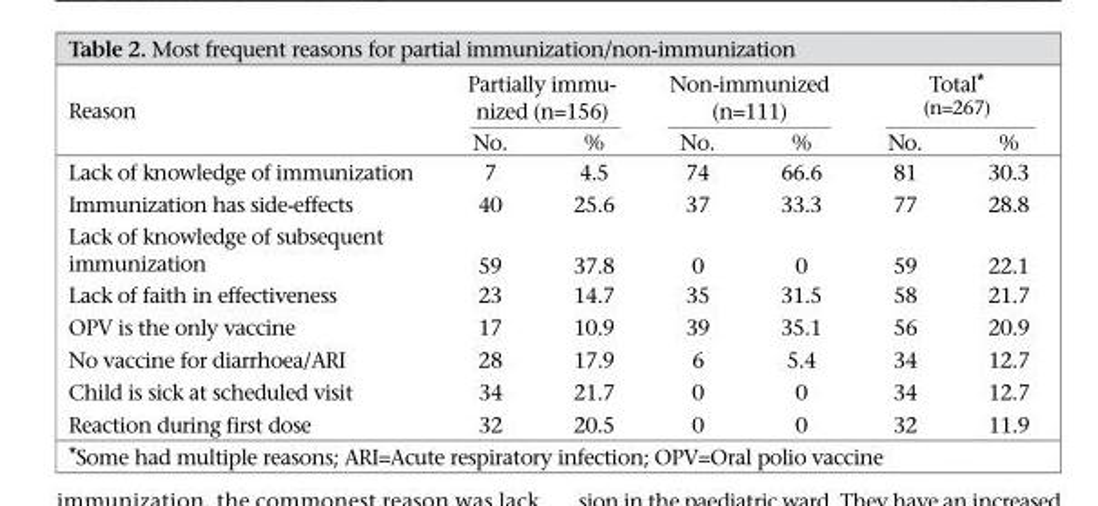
<table><thead><tr><td rowspan="2">Reason</td><td colspan="2">Partially immu- nized (n=156)</td><td colspan="2">Non-immunized (n=111)</td><td colspan="2">Total* (n=267)</td></tr><tr><td>No.</td><td>%</td><td>No.</td><td>%</td><td>No.</td><td>%</td></tr></thead><tbody><tr><td>Lack of knowledge of immunization</td><td>7</td><td>4.5</td><td>74</td><td>66.6</td><td>81</td><td>30.3</td></tr><tr><td>Immunization has side-effects</td><td>40</td><td>25.6</td><td>37</td><td>33.3</td><td>77</td><td>28.8</td></tr><tr><td>Lack of knowledge of subsequent immunization</td><td>59</td><td>37.8</td><td>0</td><td>0</td><td>59</td><td>22.1</td></tr><tr><td>Lack of faith in effectiveness</td><td>23</td><td>14.7</td><td>35</td><td>31.5</td><td>58</td><td>21.7</td></tr><tr><td>OPV is the only vaccine</td><td>17</td><td>10.9</td><td>39</td><td>35.1</td><td>56</td><td>20.9</td></tr><tr><td>No vaccine for diarrhoea/ARI</td><td>28</td><td>17.9</td><td>6</td><td>5.4</td><td>34</td><td>12.7</td></tr><tr><td>Child is sick at scheduled visit</td><td>34</td><td>21.7</td><td>0</td><td>0</td><td>34</td><td>12.7</td></tr><tr><td>Reaction during first dose</td><td>32</td><td>20.5</td><td>0</td><td>0</td><td>32</td><td>11.9</td></tr></tbody></table>